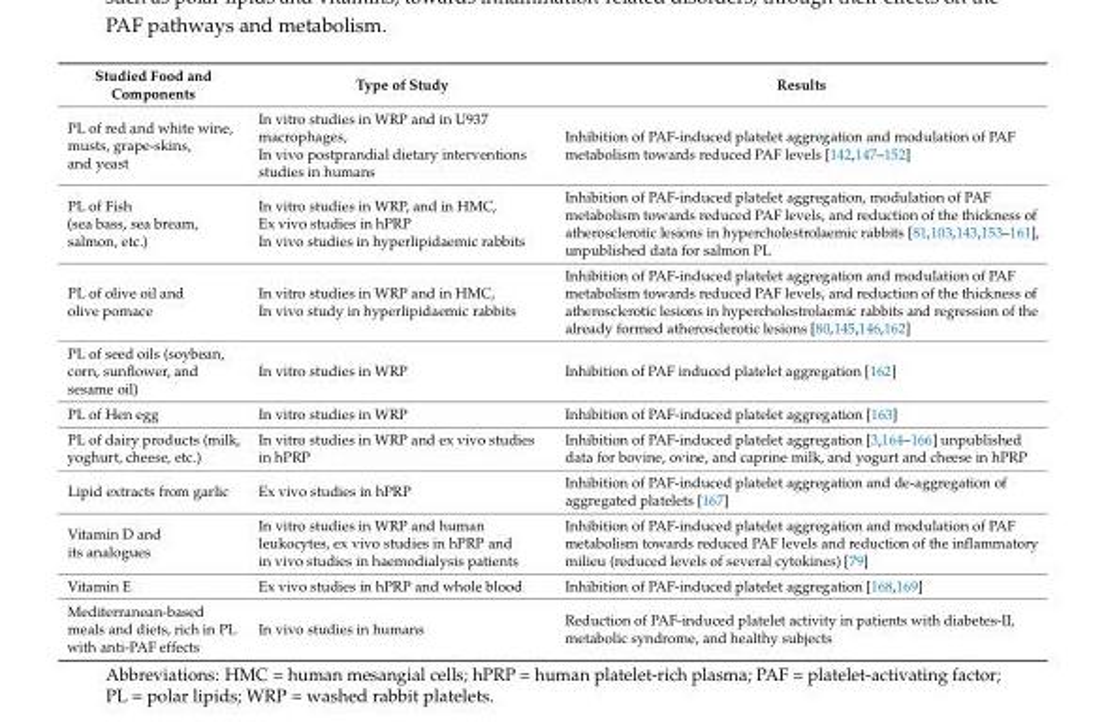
<table><thead><tr><td>Studied Food and Components</td><td>Type of Study</td><td>Results</td></tr></thead><tbody><tr><td>PL of red and white wine, musts, grape-skins, and yeast</td><td>In vitro studies in WRP and in U937 macrophages, In vivo postprandial dietary interventions studies in humans</td><td>Inhibition of PAF-induced platelet aggregation and modulation of PAF metabolism towards reduced PAF levels [142,147–152]</td></tr><tr><td>PL of Fish (sea bass, sea bream, salmon, etc.)</td><td>In vitro studies in WRP, and in HMC, Ex vivo studies in hPRP In vivo studies in hyperlipidaemic rabbits</td><td>Inhibition of PAF-induced platelet aggregation, modulation of PAF metabolism towards reduced PAF levels, and reduction of the thickness of atherosclerotic lesions in hypercholestrolaemic rabbits [81,103,143,153–161], unpublished data for salmon PL</td></tr><tr><td>PL of olive oil and olive pomace</td><td>In vitro studies in WRP and in HMC, In vivo study in hyperlipidaemic rabbits</td><td>Inhibition of PAF-induced platelet aggregation and modulation of PAF metabolism towards reduced PAF levels, and reduction of the thickness of atherosclerotic lesions in hypercholestrolaemic rabbits and regression of the already formed atherosclerotic lesions [80,145,146,162]</td></tr><tr><td>PL of seed oils (soybean, corn, sunflower, and sesame oil)</td><td>In vitro studies in WRP</td><td>Inhibition of PAF induced platelet aggregation [162]</td></tr><tr><td>PL of Hen egg</td><td>In vitro studies in WRP</td><td>Inhibition of PAF-induced platelet aggregation [163]</td></tr><tr><td>PL of dairy products (milk, yoghurt, cheese, etc.)</td><td>In vitro studies in WRP and ex vivo studies in hPRP</td><td>Inhibition of PAF-induced platelet aggregation [3,164–166] unpublished data for bovine, ovine, and caprine milk, and yogurt and cheese in hPRP</td></tr><tr><td>Lipid extracts from garlic</td><td>Ex vivo studies in hPRP</td><td>Inhibition of PAF-induced platelet aggregation and de-aggregation of aggregated platelets [167]</td></tr><tr><td>Vitamin D and its analogues</td><td>In vitro studies in WRP and human leukocytes, ex vivo studies in hPRP and in vivo studies in haemodialysis patients</td><td>Inhibition of PAF-induced platelet aggregation and modulation of PAF metabolism towards reduced PAF levels and reduction of the inflammatory milieu (reduced levels of several cytokines) [79]</td></tr><tr><td>Vitamin E</td><td>Ex vivo studies in hPRP and whole blood</td><td>Inhibition of PAF-induced platelet aggregation [168,169]</td></tr><tr><td>Mediterranean-based meals and diets, rich in PL with anti-PAF effects</td><td>In vivo studies in humans</td><td>Reduction of PAF-induced platelet activity in patients with diabetes-II, metabolic syndrome, and healthy subjects</td></tr></tbody></table>